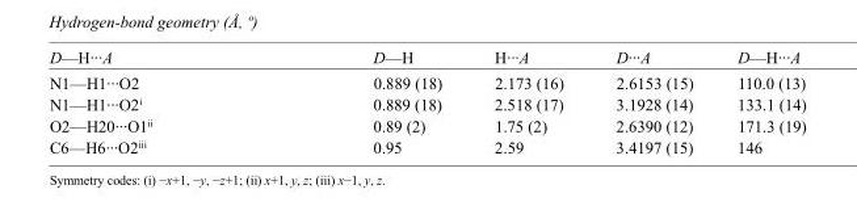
<table><tbody><tr><td>D—H···A</td><td>D—H</td><td>H···A</td><td>D···A</td><td>D—H···A</td></tr><tr><td>N1—H1···O2</td><td>0.889 (18)</td><td>2.173 (16)</td><td>2.6153 (15)</td><td>110.0 (13)</td></tr><tr><td>N1—H1···O2<sup>i</sup></td><td>0.889 (18)</td><td>2.518 (17)</td><td>3.1928 (14)</td><td>133.1 (14)</td></tr><tr><td>O2—H20···O1<sup>ii</sup></td><td>0.89 (2)</td><td>1.75 (2)</td><td>2.6390 (12)</td><td>171.3 (19)</td></tr><tr><td>C6—H6···O2<sup>iii</sup></td><td>0.95</td><td>2.59</td><td>3.4197 (15)</td><td>146</td></tr></tbody></table>